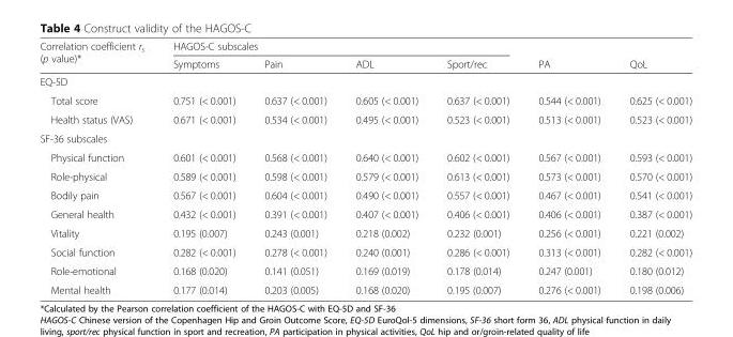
<table><thead><tr><td rowspan="2">Correlation coefficient r<sub>s</sub> (p value)*</td><td colspan="4">HAGOS-C subscales</td><td rowspan="2">PA</td><td rowspan="2">QoL</td></tr><tr><td>Symptoms</td><td>Pain</td><td>ADL</td><td>Sport/rec</td></tr></thead><tbody><tr><td colspan="7">EQ-5D</td></tr><tr><td>Total score</td><td>0.751 (&lt; 0.001)</td><td>0.637 (&lt; 0.001)</td><td>0.605 (&lt; 0.001)</td><td>0.637 (&lt; 0.001)</td><td>0.544 (&lt; 0.001)</td><td>0.625 (&lt; 0.001)</td></tr><tr><td>Health status (VAS)</td><td>0.671 (&lt; 0.001)</td><td>0.534 (&lt; 0.001)</td><td>0.495 (&lt; 0.001)</td><td>0.523 (&lt; 0.001)</td><td>0.513 (&lt; 0.001)</td><td>0.523 (&lt; 0.001)</td></tr><tr><td colspan="7">SF-36 subscales</td></tr><tr><td>Physical function</td><td>0.601 (&lt; 0.001)</td><td>0.568 (&lt; 0.001)</td><td>0.640 (&lt; 0.001)</td><td>0.602 (&lt; 0.001)</td><td>0.567 (&lt; 0.001)</td><td>0.593 (&lt; 0.001)</td></tr><tr><td>Role-physical</td><td>0.589 (&lt; 0.001)</td><td>0.598 (&lt; 0.001)</td><td>0.579 (&lt; 0.001)</td><td>0.613 (&lt; 0.001)</td><td>0.573 (&lt; 0.001)</td><td>0.570 (&lt; 0.001)</td></tr><tr><td>Bodily pain</td><td>0.567 (&lt; 0.001)</td><td>0.604 (&lt; 0.001)</td><td>0.490 (&lt; 0.001)</td><td>0.557 (&lt; 0.001)</td><td>0.467 (&lt; 0.001)</td><td>0.541 (&lt; 0.001)</td></tr><tr><td>General health</td><td>0.432 (&lt; 0.001)</td><td>0.391 (&lt; 0.001)</td><td>0.407 (&lt; 0.001)</td><td>0.406 (&lt; 0.001)</td><td>0.406 (&lt; 0.001)</td><td>0.387 (&lt; 0.001)</td></tr><tr><td>Vitality</td><td>0.195 (0.007)</td><td>0.243 (0.001)</td><td>0.218 (0.002)</td><td>0.232 (0.001)</td><td>0.256 (&lt; 0.001)</td><td>0.221 (0.002)</td></tr><tr><td>Social function</td><td>0.282 (&lt; 0.001)</td><td>0.278 (&lt; 0.001)</td><td>0.240 (0.001)</td><td>0.286 (&lt; 0.001)</td><td>0.313 (&lt; 0.001)</td><td>0.282 (&lt; 0.001)</td></tr><tr><td>Role-emotional</td><td>0.168 (0.020)</td><td>0.141 (0.051)</td><td>0.169 (0.019)</td><td>0.178 (0.014)</td><td>0.247 (0.001)</td><td>0.180 (0.012)</td></tr><tr><td>Mental health</td><td>0.177 (0.014)</td><td>0.203 (0.005)</td><td>0.168 (0.020)</td><td>0.195 (0.007)</td><td>0.276 (&lt; 0.001)</td><td>0.198 (0.006)</td></tr></tbody></table>